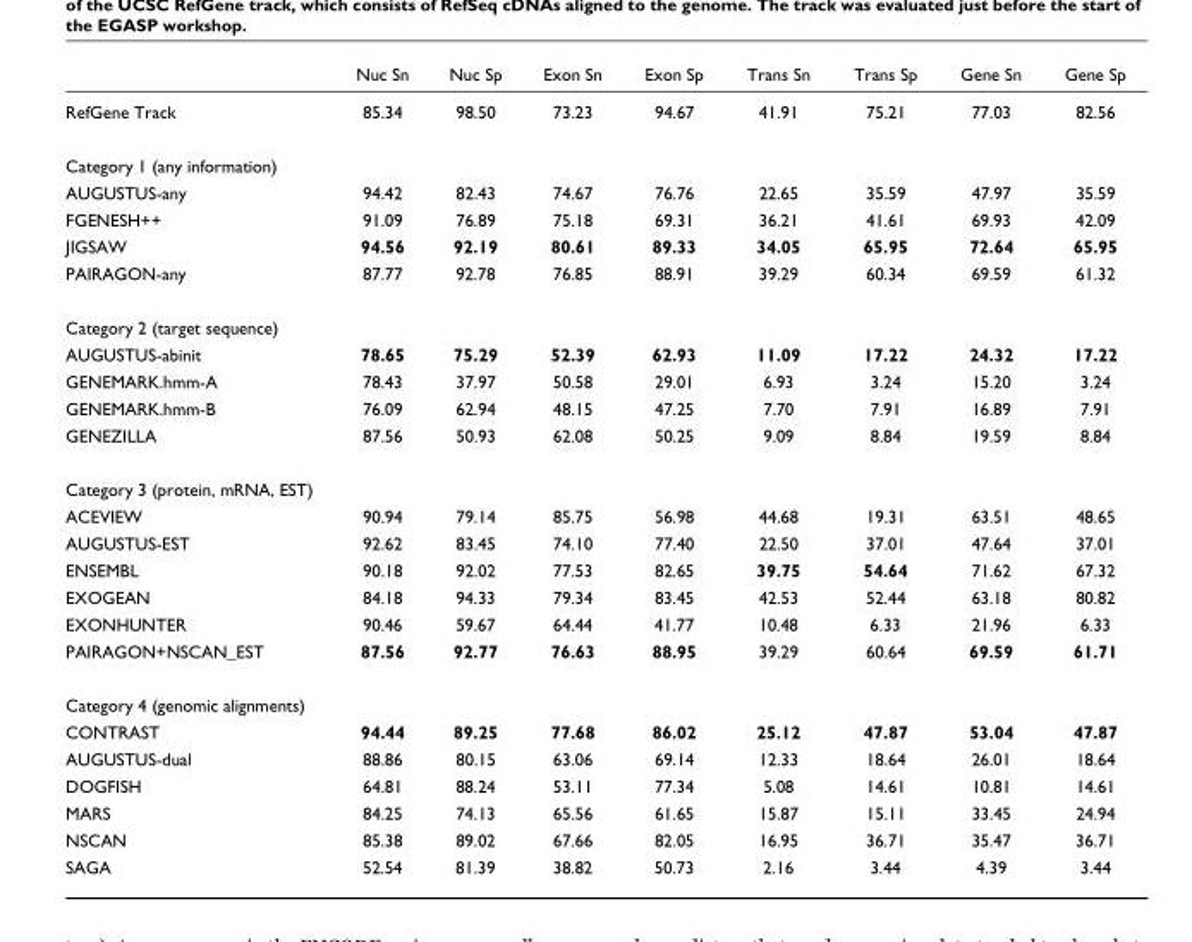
<table><thead><tr><td></td><td>Nuc Sn</td><td>Nuc Sp</td><td>Exon Sn</td><td>Exon Sp</td><td>Trans Sn</td><td>Trans Sp</td><td>Gene Sn</td><td>Gene Sp</td></tr></thead><tbody><tr><td>RefGene Track</td><td>85.34</td><td>98.50</td><td>73.23</td><td>94.67</td><td>41.91</td><td>75.21</td><td>77.03</td><td>82.56</td></tr><tr><td colspan="9">Category 1 (any information)</td></tr><tr><td>AUGUSTUS-any</td><td>94.42</td><td>82.43</td><td>74.67</td><td>76.76</td><td>22.65</td><td>35.59</td><td>47.97</td><td>35.59</td></tr><tr><td>FGENESH++</td><td>91.09</td><td>76.89</td><td>75.18</td><td>69.31</td><td>36.21</td><td>41.61</td><td>69.93</td><td>42.09</td></tr><tr><td>JIGSAW</td><td>94.56</td><td>92.19</td><td>80.61</td><td>89.33</td><td>34.05</td><td>65.95</td><td>72.64</td><td>65.95</td></tr><tr><td>PAIRAGON-any</td><td>87.77</td><td>92.78</td><td>76.85</td><td>88.91</td><td>39.29</td><td>60.34</td><td>69.59</td><td>61.32</td></tr><tr><td colspan="9">Category 2 (target sequence)</td></tr><tr><td>AUGUSTUS-abinit</td><td>78.65</td><td>75.29</td><td>52.39</td><td>62.93</td><td>11.09</td><td>17.22</td><td>24.32</td><td>17.22</td></tr><tr><td>GENEMARK.hmm-A</td><td>78.43</td><td>37.97</td><td>50.58</td><td>29.01</td><td>6.93</td><td>3.24</td><td>15.20</td><td>3.24</td></tr><tr><td>GENEMARK.hmm-B</td><td>76.09</td><td>62.94</td><td>48.15</td><td>47.25</td><td>7.70</td><td>7.91</td><td>16.89</td><td>7.91</td></tr><tr><td>GENEZILLA</td><td>87.56</td><td>50.93</td><td>62.08</td><td>50.25</td><td>9.09</td><td>8.84</td><td>19.59</td><td>8.84</td></tr><tr><td colspan="9">Category 3 (protein, mRNA, EST)</td></tr><tr><td>ACEVIEW</td><td>90.94</td><td>79.14</td><td>85.75</td><td>56.98</td><td>44.68</td><td>19.31</td><td>63.51</td><td>48.65</td></tr><tr><td>AUGUSTUS-EST</td><td>92.62</td><td>83.45</td><td>74.10</td><td>77.40</td><td>22.50</td><td>37.01</td><td>47.64</td><td>37.01</td></tr><tr><td>ENSEMBL</td><td>90.18</td><td>92.02</td><td>77.53</td><td>82.65</td><td>39.75</td><td>54.64</td><td>71.62</td><td>67.32</td></tr><tr><td>EXOGEAN</td><td>84.18</td><td>94.33</td><td>79.34</td><td>83.45</td><td>42.53</td><td>52.44</td><td>63.18</td><td>80.82</td></tr><tr><td>EXONHUNTER</td><td>90.46</td><td>59.67</td><td>64.44</td><td>41.77</td><td>10.48</td><td>6.33</td><td>21.96</td><td>6.33</td></tr><tr><td>PAIRAGON+NSCAN_EST</td><td>87.56</td><td>92.77</td><td>76.63</td><td>88.95</td><td>39.29</td><td>60.64</td><td>69.59</td><td>61.71</td></tr><tr><td colspan="9">Category 4 (genomic alignments)</td></tr><tr><td>CONTRAST</td><td>94.44</td><td>89.25</td><td>77.68</td><td>86.02</td><td>25.12</td><td>47.87</td><td>53.04</td><td>47.87</td></tr><tr><td>AUGUSTUS-dual</td><td>88.86</td><td>80.15</td><td>63.06</td><td>69.14</td><td>12.33</td><td>18.64</td><td>26.01</td><td>18.64</td></tr><tr><td>DOGFISH</td><td>64.81</td><td>88.24</td><td>53.11</td><td>77.34</td><td>5.08</td><td>14.61</td><td>10.81</td><td>14.61</td></tr><tr><td>MARS</td><td>84.25</td><td>74.13</td><td>65.56</td><td>61.65</td><td>15.87</td><td>15.11</td><td>33.45</td><td>24.94</td></tr><tr><td>NSCAN</td><td>85.38</td><td>89.02</td><td>67.66</td><td>82.05</td><td>16.95</td><td>36.71</td><td>35.47</td><td>36.71</td></tr><tr><td>SAGA</td><td>52.54</td><td>81.39</td><td>38.82</td><td>50.73</td><td>2.16</td><td>3.44</td><td>4.39</td><td>3.44</td></tr></tbody></table>